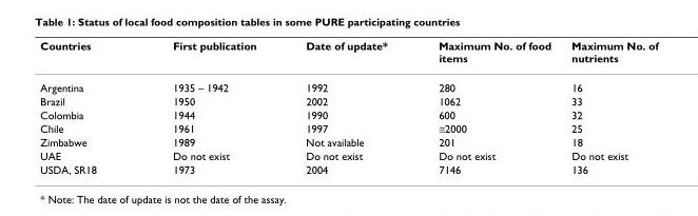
<table><thead><tr><td>Countries</td><td>First publication</td><td>Date of update*</td><td>Maximum No. of food items</td><td>Maximum No. of nutrients</td></tr></thead><tbody><tr><td>Argentina</td><td>1935 – 1942</td><td>1992</td><td>280</td><td>16</td></tr><tr><td>Brazil</td><td>1950</td><td>2002</td><td>1062</td><td>33</td></tr><tr><td>Colombia</td><td>1944</td><td>1990</td><td>600</td><td>32</td></tr><tr><td>Chile</td><td>1961</td><td>1997</td><td>≅2000</td><td>25</td></tr><tr><td>Zimbabwe</td><td>1989</td><td>Not available</td><td>201</td><td>18</td></tr><tr><td>UAE</td><td>Do not exist</td><td>Do not exist</td><td>Do not exist</td><td>Do not exist</td></tr><tr><td>USDA, SR18</td><td>1973</td><td>2004</td><td>7146</td><td>136</td></tr></tbody></table>